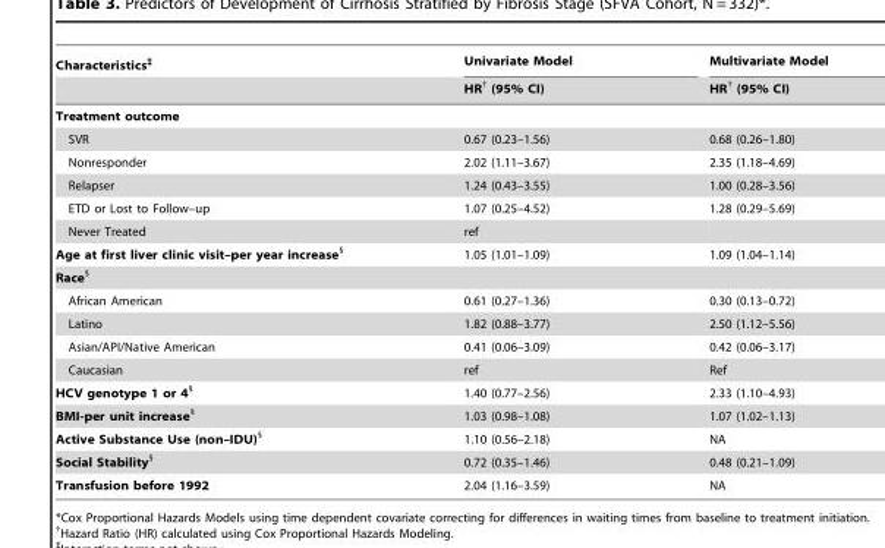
<table><thead><tr><td rowspan="2">Characteristics‡</td><td rowspan="2">Univariate Model HR† (95% CI)</td><td rowspan="2">Multivariate Model HR† (95% CI)</td></tr><tr></tr></thead><tbody><tr><td colspan="3">Treatment outcome</td></tr><tr><td>SVR</td><td>0.67 (0.23–1.56)</td><td>0.68 (0.26–1.80)</td></tr><tr><td>Nonresponder</td><td>2.02 (1.11–3.67)</td><td>2.35 (1.18–4.69)</td></tr><tr><td>Relapser</td><td>1.24 (0.43–3.55)</td><td>1.00 (0.28–3.56)</td></tr><tr><td>ETD or Lost to Follow–up</td><td>1.07 (0.25–4.52)</td><td>1.28 (0.29–5.69)</td></tr><tr><td>Never Treated</td><td>ref</td><td></td></tr><tr><td>Age at first liver clinic visit–per year increase§</td><td>1.05 (1.01–1.09)</td><td>1.09 (1.04–1.14)</td></tr><tr><td colspan="3">Race§</td></tr><tr><td>African American</td><td>0.61 (0.27–1.36)</td><td>0.30 (0.13–0.72)</td></tr><tr><td>Latino</td><td>1.82 (0.88–3.77)</td><td>2.50 (1.12–5.56)</td></tr><tr><td>Asian/API/Native American</td><td>0.41 (0.06–3.09)</td><td>0.42 (0.06–3.17)</td></tr><tr><td>Caucasian</td><td>ref</td><td>Ref</td></tr><tr><td>HCV genotype 1 or 4§</td><td>1.40 (0.77–2.56)</td><td>2.33 (1.10–4.93)</td></tr><tr><td>BMI-per unit increase§</td><td>1.03 (0.98–1.08)</td><td>1.07 (1.02–1.13)</td></tr><tr><td>Active Substance Use (non–IDU)§</td><td>1.10 (0.56–2.18)</td><td>NA</td></tr><tr><td>Social Stability§</td><td>0.72 (0.35–1.46)</td><td>0.48 (0.21–1.09)</td></tr><tr><td>Transfusion before 1992</td><td>2.04 (1.16–3.59)</td><td>NA</td></tr></tbody></table>